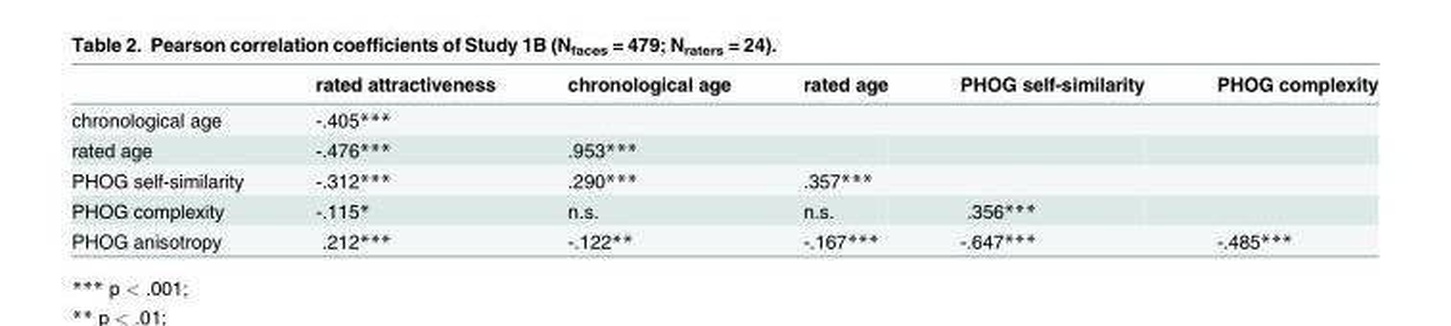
<table><thead><tr><td></td><td>rated attractiveness</td><td>chronological age</td><td>rated age</td><td>PHOG self-similarity</td><td>PHOG complexity</td></tr></thead><tbody><tr><td>chronological age</td><td>-.405***</td><td></td><td></td><td></td><td></td></tr><tr><td>rated age</td><td>-.476***</td><td>.953***</td><td></td><td></td><td></td></tr><tr><td>PHOG self-similarity</td><td>-.312***</td><td>.290***</td><td>.357***</td><td></td><td></td></tr><tr><td>PHOG complexity</td><td>-.115*</td><td>n.s.</td><td>n.s.</td><td>.356***</td><td></td></tr><tr><td>PHOG anisotropy</td><td>.212***</td><td>-.122**</td><td>-.167***</td><td>-.647***</td><td>-.485***</td></tr></tbody></table>